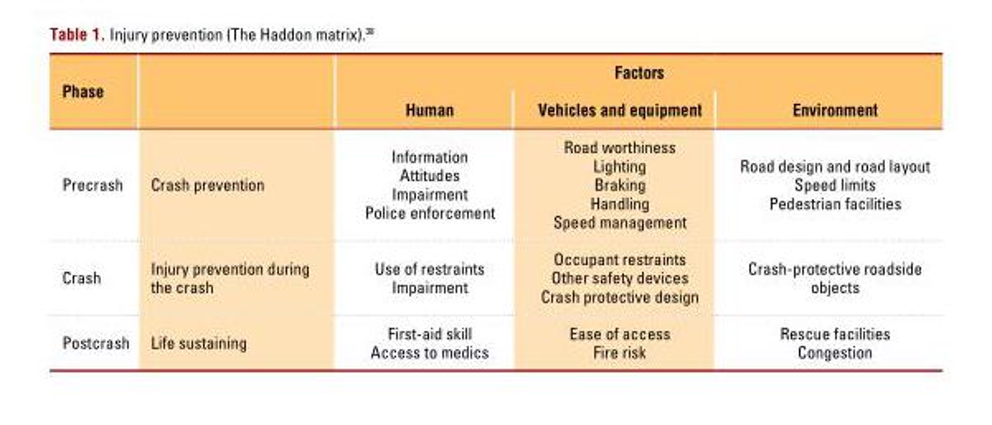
<table><thead><tr><td rowspan="2">Phase</td><td rowspan="2"></td><td colspan="3">Factors</td></tr><tr><td>Human</td><td>Vehicles and equipment</td><td>Environment</td></tr></thead><tbody><tr><td>Precrash</td><td>Crash prevention</td><td>Information Attitudes Impairment Police enforcement</td><td>Road worthiness Lighting Braking Handling Speed management</td><td>Road design and road layout Speed limits Pedestrian facilities</td></tr><tr><td>Crash</td><td>Injury prevention during the crash</td><td>Use of restraints Impairment</td><td>Occupant restraints Other safety devices Crash protective design</td><td>Crash-protective roadside objects</td></tr><tr><td>Postcrash</td><td>Life sustaining</td><td>First-aid skill Access to medics</td><td>Ease of access Fire risk</td><td>Rescue facilities Congestion</td></tr></tbody></table>